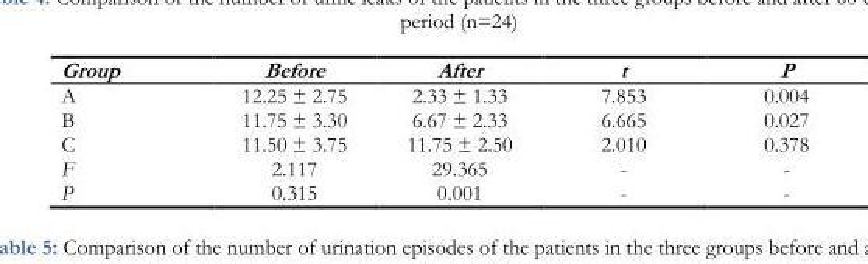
<table><thead><tr><td>Group</td><td>Before</td><td>After</td><td>t</td><td>P</td></tr></thead><tbody><tr><td>A</td><td>12.25 ± 2.75</td><td>2.33 ± 1.33</td><td>7.853</td><td>0.004</td></tr><tr><td>B</td><td>11.75 ± 3.30</td><td>6.67 ± 2.33</td><td>6.665</td><td>0.027</td></tr><tr><td>C</td><td>11.50 ± 3.75</td><td>11.75 ± 2.50</td><td>2.010</td><td>0.378</td></tr><tr><td>F</td><td>2.117</td><td>29.365</td><td>-</td><td>-</td></tr><tr><td>P</td><td>0.315</td><td>0.001</td><td>-</td><td>-</td></tr></tbody></table>